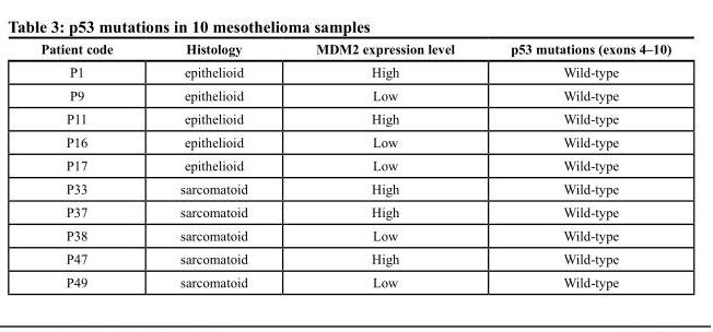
<table><thead><tr><td>Patient code</td><td>Histology</td><td>MDM2 expression level</td><td>p53 mutations (exons 4–10)</td></tr></thead><tbody><tr><td>P1</td><td>epithelioid</td><td>High</td><td>Wild-type</td></tr><tr><td>P9</td><td>epithelioid</td><td>Low</td><td>Wild-type</td></tr><tr><td>P11</td><td>epithelioid</td><td>High</td><td>Wild-type</td></tr><tr><td>P16</td><td>epithelioid</td><td>Low</td><td>Wild-type</td></tr><tr><td>P17</td><td>epithelioid</td><td>Low</td><td>Wild-type</td></tr><tr><td>P33</td><td>sarcomatoid</td><td>High</td><td>Wild-type</td></tr><tr><td>P37</td><td>sarcomatoid</td><td>High</td><td>Wild-type</td></tr><tr><td>P38</td><td>sarcomatoid</td><td>Low</td><td>Wild-type</td></tr><tr><td>P47</td><td>sarcomatoid</td><td>High</td><td>Wild-type</td></tr><tr><td>P49</td><td>sarcomatoid</td><td>Low</td><td>Wild-type</td></tr></tbody></table>